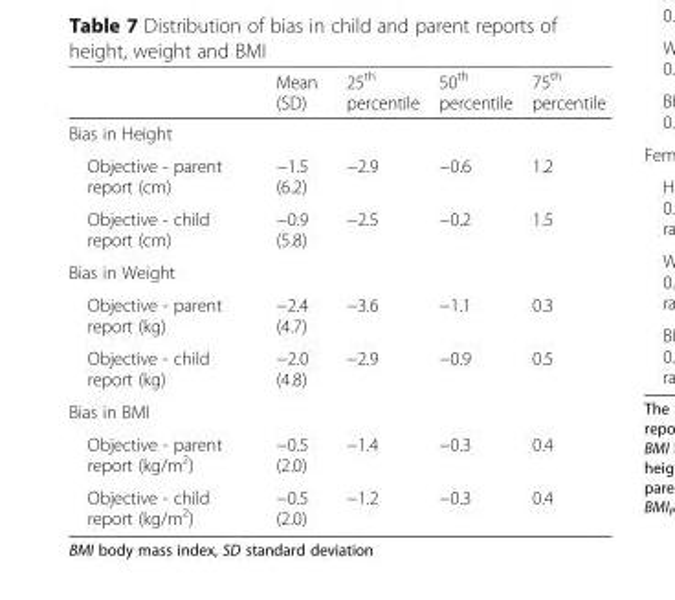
<table><thead><tr><td></td><td>Mean (SD)</td><td>25<sup>th</sup> percentile</td><td>50<sup>th</sup> percentile</td><td>75<sup>th</sup> percentile</td></tr></thead><tbody><tr><td colspan="5">Bias in Height</td></tr><tr><td>Objective - parent report (cm)</td><td>−1.5 (6.2)</td><td>−2.9</td><td>−0.6</td><td>1.2</td></tr><tr><td>Objective - child report (cm)</td><td>−0.9 (5.8)</td><td>−2.5</td><td>−0.2</td><td>1.5</td></tr><tr><td colspan="5">Bias in Weight</td></tr><tr><td>Objective - parent report (kg)</td><td>−2.4 (4.7)</td><td>−3.6</td><td>−1.1</td><td>0.3</td></tr><tr><td>Objective - child report (kg)</td><td>−2.0 (4.8)</td><td>−2.9</td><td>−0.9</td><td>0.5</td></tr><tr><td colspan="5">Bias in BMI</td></tr><tr><td>Objective - parent report (kg/m<sup>2</sup>)</td><td>−0.5 (2.0)</td><td>−1.4</td><td>−0.3</td><td>0.4</td></tr><tr><td>Objective - child report (kg/m<sup>2</sup>)</td><td>−0.5 (2.0)</td><td>−1.2</td><td>−0.3</td><td>0.4</td></tr></tbody></table>